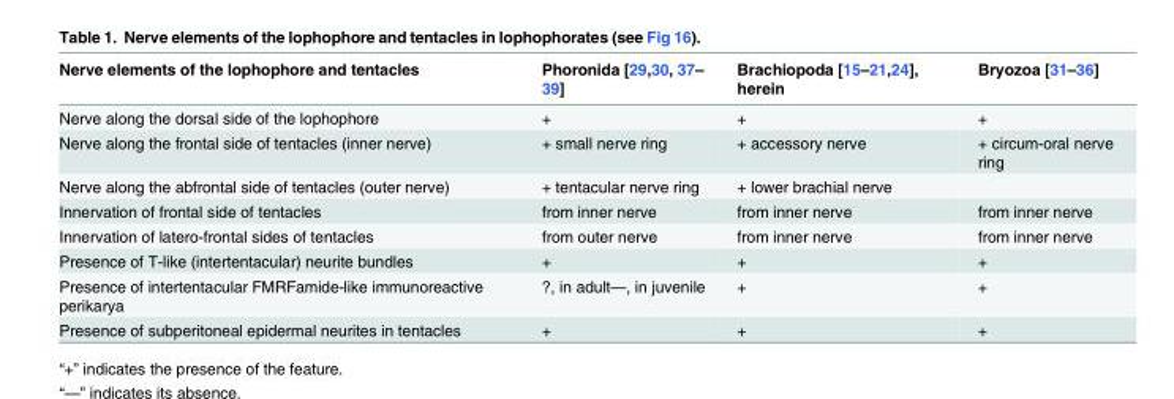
<table><thead><tr><td>Nerve elements of the lophophore and tentacles</td><td>Phoronida [29,30, 37– 39]</td><td>Brachiopoda [15–21,24], herein</td><td>Bryozoa [31–36]</td></tr></thead><tbody><tr><td>Nerve along the dorsal side of the lophophore</td><td>+</td><td>+</td><td>+</td></tr><tr><td>Nerve along the frontal side of tentacles (inner nerve)</td><td>+ small nerve ring</td><td>+ accessory nerve</td><td>+ circum-oral nerve ring</td></tr><tr><td>Nerve along the abfrontal side of tentacles (outer nerve)</td><td>+ tentacular nerve ring</td><td>+ lower brachial nerve</td><td>―</td></tr><tr><td>Innervation of frontal side of tentacles</td><td>from inner nerve</td><td>from inner nerve</td><td>from inner nerve</td></tr><tr><td>Innervation of latero-frontal sides of tentacles</td><td>from outer nerve</td><td>from inner nerve</td><td>from inner nerve</td></tr><tr><td>Presence of T-like (intertentacular) neurite bundles</td><td>+</td><td>+</td><td>+</td></tr><tr><td>Presence of intertentacular FMRFamide-like immunoreactive perikarya</td><td>?, in adult—, in juvenile</td><td>+</td><td>+</td></tr><tr><td>Presence of subperitoneal epidermal neurites in tentacles</td><td>+</td><td>+</td><td>+</td></tr></tbody></table>